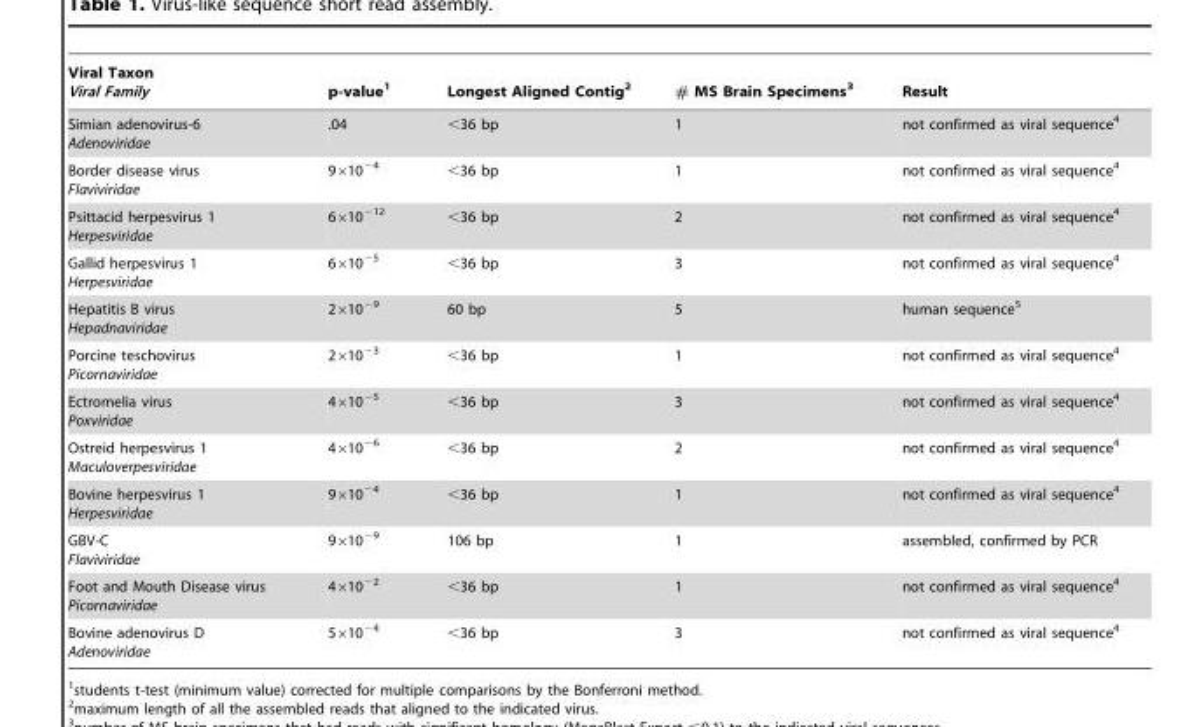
<table><thead><tr><td>Viral Taxon Viral Family</td><td>p-value<sup>1</sup></td><td>Longest Aligned Contig<sup>2</sup></td><td># MS Brain Specimens<sup>3</sup></td><td>Result</td></tr></thead><tbody><tr><td>Simian adenovirus-6 Adenoviridae</td><td>.04</td><td>&lt;36 bp</td><td>1</td><td>not confirmed as viral sequence<sup>4</sup></td></tr><tr><td>Border disease virus Flaviviridae</td><td>9×10<sup>−4</sup></td><td>&lt;36 bp</td><td>1</td><td>not confirmed as viral sequence<sup>4</sup></td></tr><tr><td>Psittacid herpesvirus 1 Herpesviridae</td><td>6×10<sup>−12</sup></td><td>&lt;36 bp</td><td>2</td><td>not confirmed as viral sequence<sup>4</sup></td></tr><tr><td>Gallid herpesvirus 1 Herpesviridae</td><td>6×10<sup>−5</sup></td><td>&lt;36 bp</td><td>3</td><td>not confirmed as viral sequence<sup>4</sup></td></tr><tr><td>Hepatitis B virus Hepadnaviridae</td><td>2×10<sup>−9</sup></td><td>60 bp</td><td>5</td><td>human sequence<sup>5</sup></td></tr><tr><td>Porcine teschovirus Picornaviridae</td><td>2×10<sup>−3</sup></td><td>&lt;36 bp</td><td>1</td><td>not confirmed as viral sequence<sup>4</sup></td></tr><tr><td>Ectromelia virus Poxviridae</td><td>4×10<sup>−5</sup></td><td>&lt;36 bp</td><td>3</td><td>not confirmed as viral sequence<sup>4</sup></td></tr><tr><td>Ostreid herpesvirus 1 Maculoverpesviridae</td><td>4×10<sup>−6</sup></td><td>&lt;36 bp</td><td>2</td><td>not confirmed as viral sequence<sup>4</sup></td></tr><tr><td>Bovine herpesvirus 1 Herpesviridae</td><td>9×10<sup>−4</sup></td><td>&lt;36 bp</td><td>1</td><td>not confirmed as viral sequence<sup>4</sup></td></tr><tr><td>GBV-C Flaviviridae</td><td>9×10<sup>−9</sup></td><td>106 bp</td><td>1</td><td>assembled, confirmed by PCR</td></tr><tr><td>Foot and Mouth Disease virus Picornaviridae</td><td>4×10<sup>−2</sup></td><td>&lt;36 bp</td><td>1</td><td>not confirmed as viral sequence<sup>4</sup></td></tr><tr><td>Bovine adenovirus D Adenoviridae</td><td>5×10<sup>−4</sup></td><td>&lt;36 bp</td><td>3</td><td>not confirmed as viral sequence<sup>4</sup></td></tr></tbody></table>